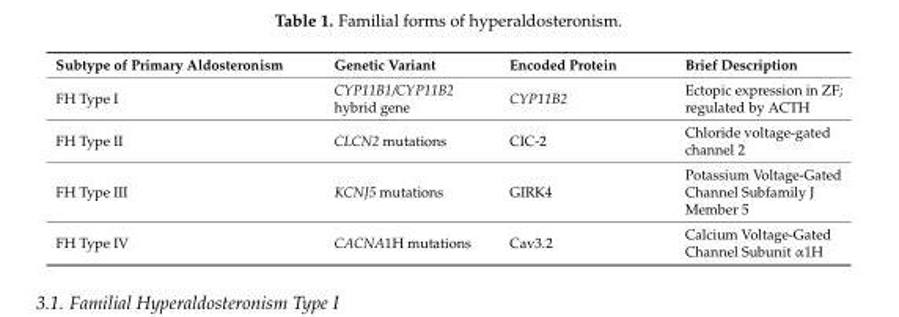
<table><thead><tr><td>Subtype of Primary Aldosteronism</td><td>Genetic Variant</td><td>Encoded Protein</td><td>Brief Description</td></tr></thead><tbody><tr><td>FH Type I</td><td>CYP11B1/CYP11B2 hybrid gene</td><td>CYP11B2</td><td>Ectopic expression in ZF; regulated by ACTH</td></tr><tr><td>FH Type II</td><td>CLCN2 mutations</td><td>CIC-2</td><td>Chloride voltage-gated channel 2</td></tr><tr><td>FH Type III</td><td>KCNJ5 mutations</td><td>GIRK4</td><td>Potassium Voltage-Gated Channel Subfamily J Member 5</td></tr><tr><td>FH Type IV</td><td>CACNA1H mutations</td><td>Cav3.2</td><td>Calcium Voltage-Gated Channel Subunit α1H</td></tr></tbody></table>